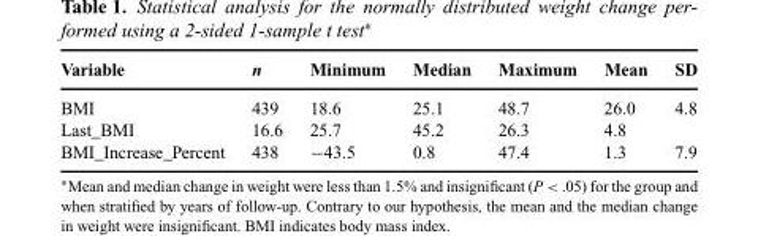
<table><thead><tr><td>Variable</td><td>n</td><td>Minimum</td><td>Median</td><td>Maximum</td><td>Mean</td><td>SD</td></tr></thead><tbody><tr><td>BMI</td><td>439</td><td>18.6</td><td>25.1</td><td>48.7</td><td>26.0</td><td>4.8</td></tr><tr><td>Last_BMI</td><td>16.6</td><td>25.7</td><td>45.2</td><td>26.3</td><td>4.8</td><td></td></tr><tr><td>BMI_Increase_Percent</td><td>438</td><td>−43.5</td><td>0.8</td><td>47.4</td><td>1.3</td><td>7.9</td></tr></tbody></table>